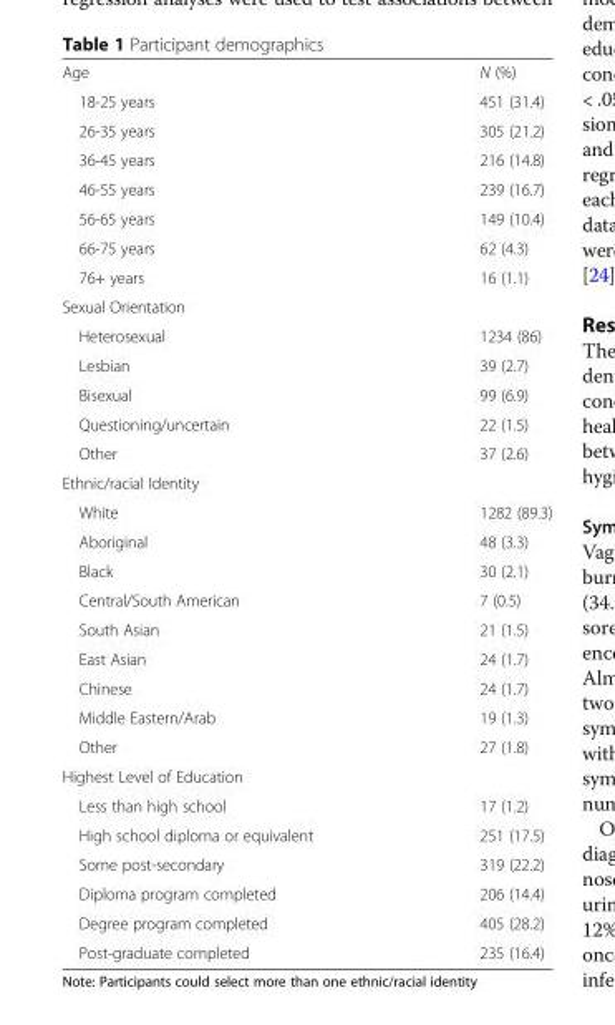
<table><tbody><tr><td>Age</td><td>N (%)</td></tr><tr><td>18-25 years</td><td>451 (31.4)</td></tr><tr><td>26-35 years</td><td>305 (21.2)</td></tr><tr><td>36-45 years</td><td>216 (14.8)</td></tr><tr><td>46-55 years</td><td>239 (16.7)</td></tr><tr><td>56-65 years</td><td>149 (10.4)</td></tr><tr><td>66-75 years</td><td>62 (4.3)</td></tr><tr><td>76+ years</td><td>16 (1.1)</td></tr><tr><td colspan="2">Sexual Orientation</td></tr><tr><td>Heterosexual</td><td>1234 (86)</td></tr><tr><td>Lesbian</td><td>39 (2.7)</td></tr><tr><td>Bisexual</td><td>99 (6.9)</td></tr><tr><td>Questioning/uncertain</td><td>22 (1.5)</td></tr><tr><td>Other</td><td>37 (2.6)</td></tr><tr><td colspan="2">Ethnic/racial Identity</td></tr><tr><td>White</td><td>1282 (89.3)</td></tr><tr><td>Aboriginal</td><td>48 (3.3)</td></tr><tr><td>Black</td><td>30 (2.1)</td></tr><tr><td>Central/South American</td><td>7 (0.5)</td></tr><tr><td>South Asian</td><td>21 (1.5)</td></tr><tr><td>East Asian</td><td>24 (1.7)</td></tr><tr><td>Chinese</td><td>24 (1.7)</td></tr><tr><td>Middle Eastern/Arab</td><td>19 (1.3)</td></tr><tr><td>Other</td><td>27 (1.8)</td></tr><tr><td colspan="2">Highest Level of Education</td></tr><tr><td>Less than high school</td><td>17 (1.2)</td></tr><tr><td>High school diploma or equivalent</td><td>251 (17.5)</td></tr><tr><td>Some post-secondary</td><td>319 (22.2)</td></tr><tr><td>Diploma program completed</td><td>206 (14.4)</td></tr><tr><td>Degree program completed</td><td>405 (28.2)</td></tr><tr><td>Post-graduate completed</td><td>235 (16.4)</td></tr></tbody></table>